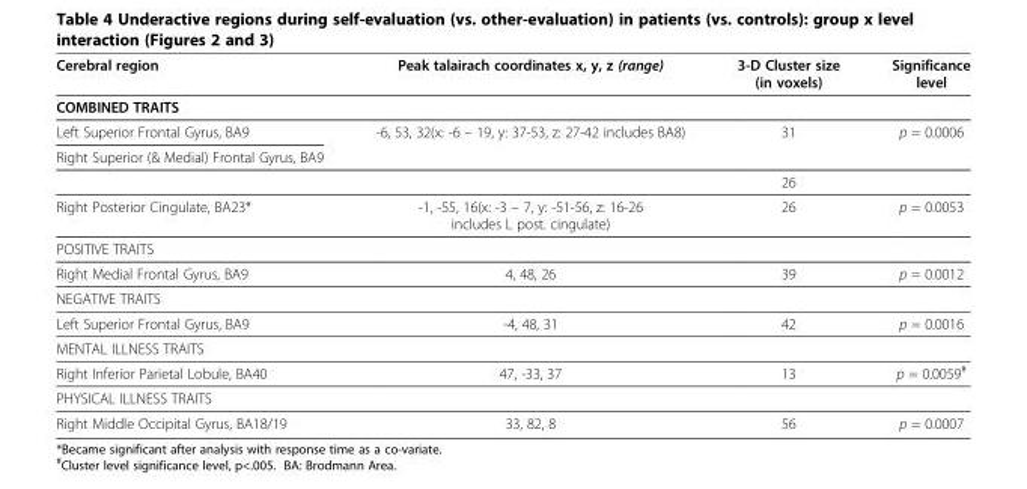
<table><thead><tr><td>Cerebral region</td><td>Peak talairach coordinates x, y, z (range)</td><td>3-D Cluster size (in voxels)</td><td>Significance level</td></tr></thead><tbody><tr><td colspan="4">COMBINED TRAITS</td></tr><tr><td>Left Superior Frontal Gyrus, BA9</td><td>-6, 53, 32(x: -6 – 19, y: 37-53, z: 27-42 includes BA8)</td><td>31</td><td>p = 0.0006</td></tr><tr><td colspan="4">Right Superior (&amp; Medial) Frontal Gyrus, BA9</td></tr><tr><td></td><td></td><td>26</td><td></td></tr><tr><td>Right Posterior Cingulate, BA23*</td><td>-1, -55, 16(x: -3 – 7, y: -51-56, z: 16-26 includes L post. cingulate)</td><td>26</td><td>p = 0.0053</td></tr><tr><td colspan="4">POSITIVE TRAITS</td></tr><tr><td>Right Medial Frontal Gyrus, BA9</td><td>4, 48, 26</td><td>39</td><td>p = 0.0012</td></tr><tr><td colspan="4">NEGATIVE TRAITS</td></tr><tr><td>Left Superior Frontal Gyrus, BA9</td><td>-4, 48, 31</td><td>42</td><td>p = 0.0016</td></tr><tr><td colspan="4">MENTAL ILLNESS TRAITS</td></tr><tr><td>Right Inferior Parietal Lobule, BA40</td><td>47, -33, 37</td><td>13</td><td>p = 0.0059<sup>#</sup></td></tr><tr><td colspan="4">PHYSICAL ILLNESS TRAITS</td></tr><tr><td>Right Middle Occipital Gyrus, BA18/19</td><td>33, 82, 8</td><td>56</td><td>p = 0.0007</td></tr></tbody></table>